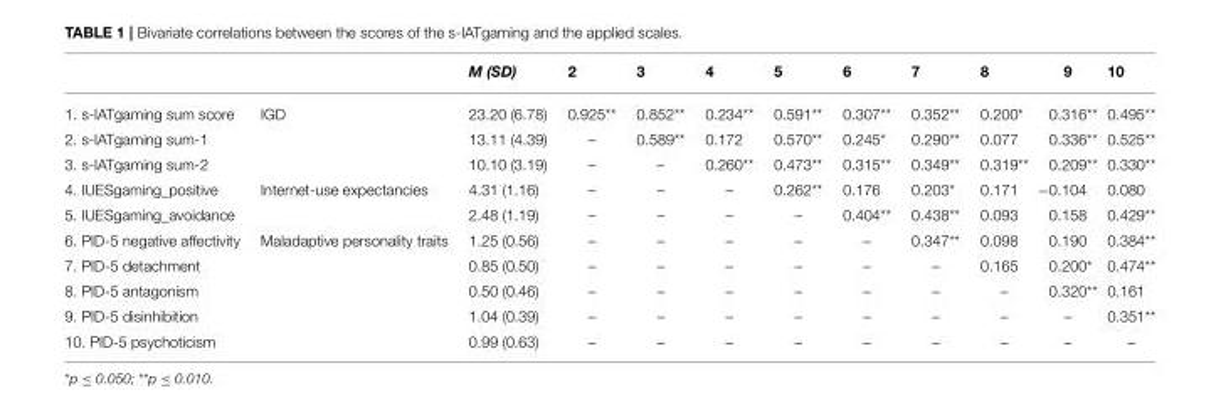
<table><thead><tr><td></td><td></td><td>M (SD)</td><td>2</td><td>3</td><td>4</td><td>5</td><td>6</td><td>7</td><td>8</td><td>9</td><td>10</td></tr></thead><tbody><tr><td>1. s-IATgaming sum score</td><td>IGD</td><td>23.20 (6.78)</td><td>0.925**</td><td>0.852**</td><td>0.234**</td><td>0.591**</td><td>0.307**</td><td>0.352**</td><td>0.200*</td><td>0.316**</td><td>0.495**</td></tr><tr><td>2. s-IATgaming sum-1</td><td></td><td>13.11 (4.39)</td><td>–</td><td>0.589**</td><td>0.172</td><td>0.570**</td><td>0.245*</td><td>0.290**</td><td>0.077</td><td>0.336**</td><td>0.525**</td></tr><tr><td>3. s-IATgaming sum-2</td><td></td><td>10.10 (3.19)</td><td>–</td><td>–</td><td>0.260**</td><td>0.473**</td><td>0.315**</td><td>0.349**</td><td>0.319**</td><td>0.209**</td><td>0.330**</td></tr><tr><td>4. IUESgaming_positive</td><td>Internet-use expectancies</td><td>4.31 (1.16)</td><td>–</td><td>–</td><td>–</td><td>0.262**</td><td>0.176</td><td>0.203*</td><td>0.171</td><td>−0.104</td><td>0.080</td></tr><tr><td>5. IUESgaming_avoidance</td><td></td><td>2.48 (1.19)</td><td>–</td><td>–</td><td>–</td><td>–</td><td>0.404**</td><td>0.438**</td><td>0.093</td><td>0.158</td><td>0.429**</td></tr><tr><td>6. PID-5 negative affectivity</td><td>Maladaptive personality traits</td><td>1.25 (0.56)</td><td>–</td><td>–</td><td>–</td><td>–</td><td>–</td><td>0.347**</td><td>0.098</td><td>0.190</td><td>0.384**</td></tr><tr><td>7. PID-5 detachment</td><td></td><td>0.85 (0.50)</td><td>–</td><td>–</td><td>–</td><td>–</td><td>–</td><td>–</td><td>0.165</td><td>0.200*</td><td>0.474**</td></tr><tr><td>8. PID-5 antagonism</td><td></td><td>0.50 (0.46)</td><td>–</td><td>–</td><td>–</td><td>–</td><td>–</td><td>–</td><td>–</td><td>0.320**</td><td>0.161</td></tr><tr><td>9. PID-5 disinhibition</td><td></td><td>1.04 (0.39)</td><td>–</td><td>–</td><td>–</td><td>–</td><td>–</td><td>–</td><td>–</td><td>–</td><td>0.351**</td></tr><tr><td>10. PID-5 psychoticism</td><td></td><td>0.99 (0.63)</td><td>–</td><td>–</td><td>–</td><td>–</td><td>–</td><td>–</td><td>–</td><td>–</td><td>–</td></tr></tbody></table>